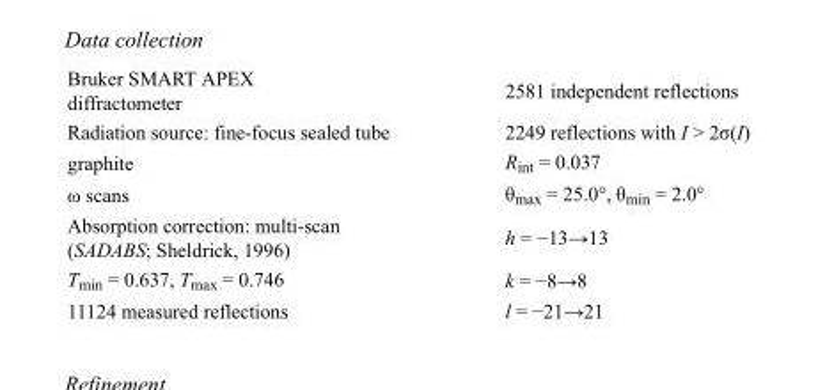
<table><tbody><tr><td>Bruker SMART APEX diffractometer</td><td>2581 independent reflections</td></tr><tr><td>Radiation source: fine-focus sealed tube</td><td>2249 reflections with I &gt; 2σ(I)</td></tr><tr><td>graphite</td><td>R<sub>int</sub> = 0.037</td></tr><tr><td>ω scans</td><td>θ<sub>max</sub> = 25.0°, θ<sub>min</sub> = 2.0°</td></tr><tr><td>Absorption correction: multi-scan (SADABS; Sheldrick, 1996)</td><td>h = −13→13</td></tr><tr><td>T<sub>min</sub> = 0.637, T<sub>max</sub> = 0.746</td><td>k = −8→8</td></tr><tr><td>11124 measured reflections</td><td>l = −21→21</td></tr></tbody></table>